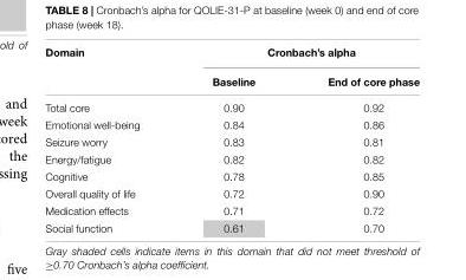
<table><thead><tr><td rowspan="2">Domain</td><td colspan="2">Cronbach’s alpha</td></tr><tr><td>Baseline</td><td>End of core phase</td></tr></thead><tbody><tr><td>Total core</td><td>0.90</td><td>0.92</td></tr><tr><td>Emotional well-being</td><td>0.84</td><td>0.86</td></tr><tr><td>Seizure worry</td><td>0.83</td><td>0.81</td></tr><tr><td>Energy/fatigue</td><td>0.82</td><td>0.82</td></tr><tr><td>Cognitive</td><td>0.78</td><td>0.85</td></tr><tr><td>Overall quality of life</td><td>0.72</td><td>0.90</td></tr><tr><td>Medication effects</td><td>0.71</td><td>0.72</td></tr><tr><td>Social function</td><td>0.61</td><td>0.70</td></tr></tbody></table>